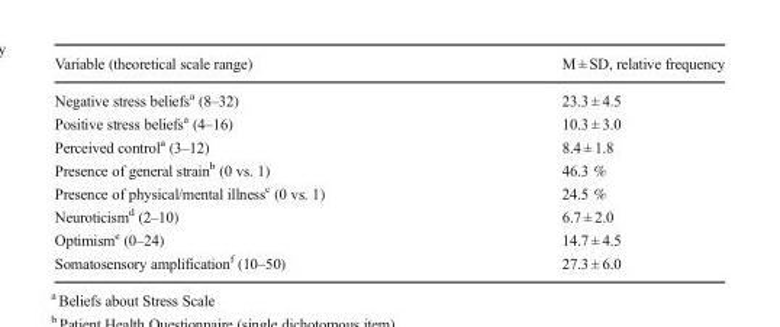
<table><thead><tr><td>Variable (theoretical scale range)</td><td>M ± SD, relative frequency</td></tr></thead><tbody><tr><td>Negative stress beliefs<sup>a</sup> (8–32)</td><td>23.3 ± 4.5</td></tr><tr><td>Positive stress beliefs<sup>a</sup> (4–16)</td><td>10.3 ± 3.0</td></tr><tr><td>Perceived control<sup>a</sup> (3–12)</td><td>8.4 ± 1.8</td></tr><tr><td>Presence of general strain<sup>b</sup> (0 vs. 1)</td><td>46.3 %</td></tr><tr><td>Presence of physical/mental illness<sup>c</sup> (0 vs. 1)</td><td>24.5 %</td></tr><tr><td>Neuroticism<sup>d</sup> (2–10)</td><td>6.7 ± 2.0</td></tr><tr><td>Optimism<sup>e</sup> (0–24)</td><td>14.7 ± 4.5</td></tr><tr><td>Somatosensory amplification<sup>f</sup> (10–50)</td><td>27.3 ± 6.0</td></tr></tbody></table>